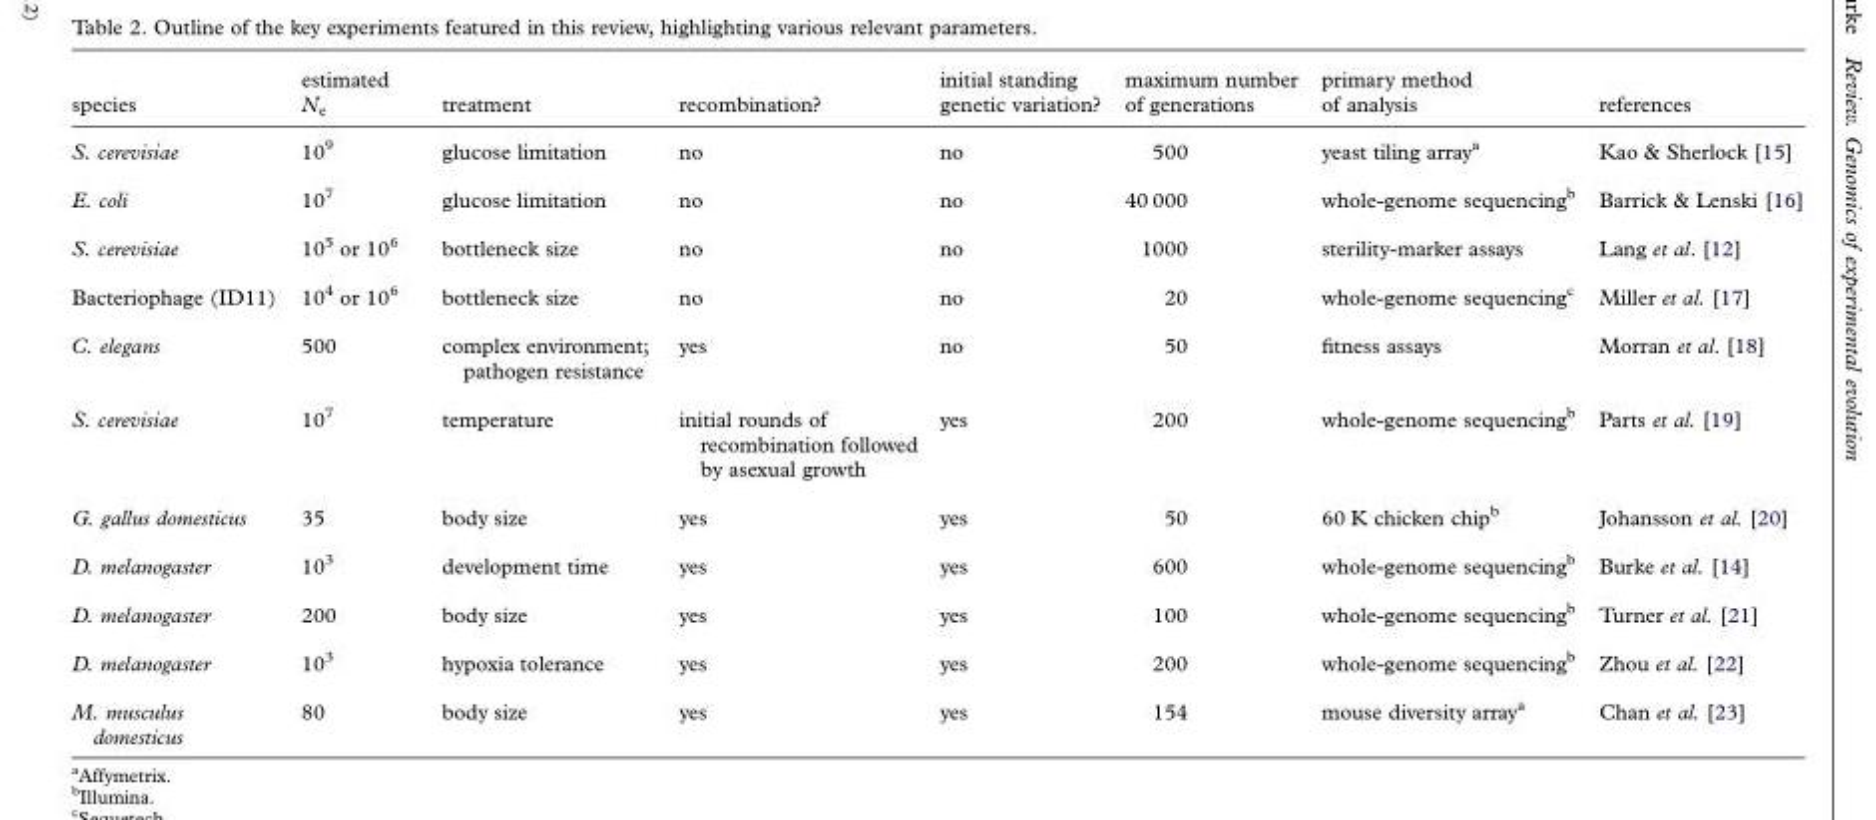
<table><thead><tr><td>species</td><td>estimated N<sub>e</sub></td><td>treatment</td><td>recombination?</td><td>initial standing genetic variation?</td><td>maximum number of generations</td><td>primary method of analysis</td><td>references</td></tr></thead><tbody><tr><td>S. cerevisiae</td><td>10<sup>9</sup></td><td>glucose limitation</td><td>no</td><td>no</td><td>500</td><td>yeast tiling array<sup>a</sup></td><td>Kao &amp; Sherlock [15]</td></tr><tr><td>E. coli</td><td>10<sup>7</sup></td><td>glucose limitation</td><td>no</td><td>no</td><td>40 000</td><td>whole-genome sequencing<sup>b</sup></td><td>Barrick &amp; Lenski [16]</td></tr><tr><td>S. cerevisiae</td><td>10<sup>5</sup> or 10<sup>6</sup></td><td>bottleneck size</td><td>no</td><td>no</td><td>1000</td><td>sterility-marker assays</td><td>Lang et al. [12]</td></tr><tr><td>Bacteriophage (ID11)</td><td>10<sup>4</sup> or 10<sup>6</sup></td><td>bottleneck size</td><td>no</td><td>no</td><td>20</td><td>whole-genome sequencing<sup>c</sup></td><td>Miller et al. [17]</td></tr><tr><td>C. elegans</td><td>500</td><td>complex environment; pathogen resistance</td><td>yes</td><td>no</td><td>50</td><td>fitness assays</td><td>Morran et al. [18]</td></tr><tr><td>S. cerevisiae</td><td>10<sup>7</sup></td><td>temperature</td><td>initial rounds of recombination followed by asexual growth</td><td>yes</td><td>200</td><td>whole-genome sequencing<sup>b</sup></td><td>Parts et al. [19]</td></tr><tr><td>G. gallus domesticus</td><td>35</td><td>body size</td><td>yes</td><td>yes</td><td>50</td><td>60 K chicken chip<sup>b</sup></td><td>Johansson et al. [20]</td></tr><tr><td>D. melanogaster</td><td>10<sup>3</sup></td><td>development time</td><td>yes</td><td>yes</td><td>600</td><td>whole-genome sequencing<sup>b</sup></td><td>Burke et al. [14]</td></tr><tr><td>D. melanogaster</td><td>200</td><td>body size</td><td>yes</td><td>yes</td><td>100</td><td>whole-genome sequencing<sup>b</sup></td><td>Turner et al. [21]</td></tr><tr><td>D. melanogaster</td><td>10<sup>3</sup></td><td>hypoxia tolerance</td><td>yes</td><td>yes</td><td>200</td><td>whole-genome sequencing<sup>b</sup></td><td>Zhou et al. [22]</td></tr><tr><td>M. musculus domesticus</td><td>80</td><td>body size</td><td>yes</td><td>yes</td><td>154</td><td>mouse diversity array<sup>a</sup></td><td>Chan et al. [23]</td></tr></tbody></table>